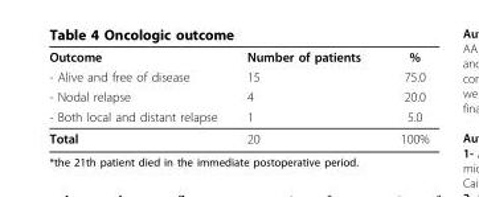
<table><thead><tr><td rowspan="4">Outcome - Alive and free of disease - Nodal relapse - Both local and distant relapse</td><td rowspan="4">Number of patients 15 4 1</td><td rowspan="4">% 75.0 20.0 5.0</td></tr><tr></tr><tr></tr><tr></tr></thead><tbody><tr><td>Total</td><td>20</td><td>100%</td></tr></tbody></table>